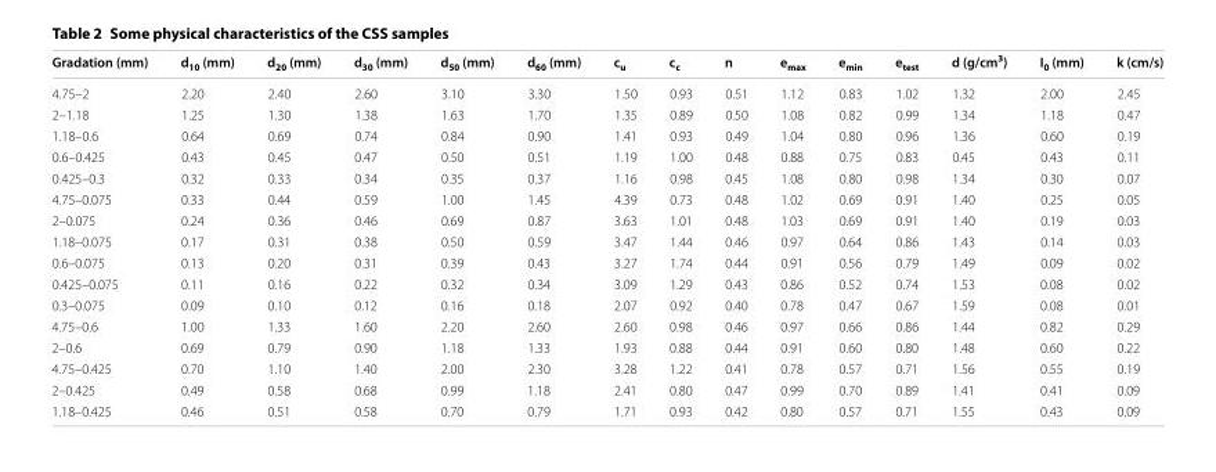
<table><thead><tr><td>Gradation (mm)</td><td>d<sub>10</sub> (mm)</td><td>d<sub>20</sub> (mm)</td><td>d<sub>30</sub> (mm)</td><td>d<sub>50</sub> (mm)</td><td>d<sub>60</sub> (mm)</td><td>c<sub>u</sub></td><td>c<sub>c</sub></td><td>n</td><td>e<sub>max</sub></td><td>e<sub>min</sub></td><td>e<sub>test</sub></td><td>d (g/cm<sup>3</sup>)</td><td>I<sub>0</sub> (mm)</td><td>k (cm/s)</td></tr></thead><tbody><tr><td>4.75–2</td><td>2.20</td><td>2.40</td><td>2.60</td><td>3.10</td><td>3.30</td><td>1.50</td><td>0.93</td><td>0.51</td><td>1.12</td><td>0.83</td><td>1.02</td><td>1.32</td><td>2.00</td><td>2.45</td></tr><tr><td>2–1.18</td><td>1.25</td><td>1.30</td><td>1.38</td><td>1.63</td><td>1.70</td><td>1.35</td><td>0.89</td><td>0.50</td><td>1.08</td><td>0.82</td><td>0.99</td><td>1.34</td><td>1.18</td><td>0.47</td></tr><tr><td>1.18–0.6</td><td>0.64</td><td>0.69</td><td>0.74</td><td>0.84</td><td>0.90</td><td>1.41</td><td>0.93</td><td>0.49</td><td>1.04</td><td>0.80</td><td>0.96</td><td>1.36</td><td>0.60</td><td>0.19</td></tr><tr><td>0.6–0.425</td><td>0.43</td><td>0.45</td><td>0.47</td><td>0.50</td><td>0.51</td><td>1.19</td><td>1.00</td><td>0.48</td><td>0.88</td><td>0.75</td><td>0.83</td><td>0.45</td><td>0.43</td><td>0.11</td></tr><tr><td>0.425–0.3</td><td>0.32</td><td>0.33</td><td>0.34</td><td>0.35</td><td>0.37</td><td>1.16</td><td>0.98</td><td>0.45</td><td>1.08</td><td>0.80</td><td>0.98</td><td>1.34</td><td>0.30</td><td>0.07</td></tr><tr><td>4.75–0.075</td><td>0.33</td><td>0.44</td><td>0.59</td><td>1.00</td><td>1.45</td><td>4.39</td><td>0.73</td><td>0.48</td><td>1.02</td><td>0.69</td><td>0.91</td><td>1.40</td><td>0.25</td><td>0.05</td></tr><tr><td>2–0.075</td><td>0.24</td><td>0.36</td><td>0.46</td><td>0.69</td><td>0.87</td><td>3.63</td><td>1.01</td><td>0.48</td><td>1.03</td><td>0.69</td><td>0.91</td><td>1.40</td><td>0.19</td><td>0.03</td></tr><tr><td>1.18–0.075</td><td>0.17</td><td>0.31</td><td>0.38</td><td>0.50</td><td>0.59</td><td>3.47</td><td>1.44</td><td>0.46</td><td>0.97</td><td>0.64</td><td>0.86</td><td>1.43</td><td>0.14</td><td>0.03</td></tr><tr><td>0.6–0.075</td><td>0.13</td><td>0.20</td><td>0.31</td><td>0.39</td><td>0.43</td><td>3.27</td><td>1.74</td><td>0.44</td><td>0.91</td><td>0.56</td><td>0.79</td><td>1.49</td><td>0.09</td><td>0.02</td></tr><tr><td>0.425–0.075</td><td>0.11</td><td>0.16</td><td>0.22</td><td>0.32</td><td>0.34</td><td>3.09</td><td>1.29</td><td>0.43</td><td>0.86</td><td>0.52</td><td>0.74</td><td>1.53</td><td>0.08</td><td>0.02</td></tr><tr><td>0.3–0.075</td><td>0.09</td><td>0.10</td><td>0.12</td><td>0.16</td><td>0.18</td><td>2.07</td><td>0.92</td><td>0.40</td><td>0.78</td><td>0.47</td><td>0.67</td><td>1.59</td><td>0.08</td><td>0.01</td></tr><tr><td>4.75–0.6</td><td>1.00</td><td>1.33</td><td>1.60</td><td>2.20</td><td>2.60</td><td>2.60</td><td>0.98</td><td>0.46</td><td>0.97</td><td>0.66</td><td>0.86</td><td>1.44</td><td>0.82</td><td>0.29</td></tr><tr><td>2–0.6</td><td>0.69</td><td>0.79</td><td>0.90</td><td>1.18</td><td>1.33</td><td>1.93</td><td>0.88</td><td>0.44</td><td>0.91</td><td>0.60</td><td>0.80</td><td>1.48</td><td>0.60</td><td>0.22</td></tr><tr><td>4.75–0.425</td><td>0.70</td><td>1.10</td><td>1.40</td><td>2.00</td><td>2.30</td><td>3.28</td><td>1.22</td><td>0.41</td><td>0.78</td><td>0.57</td><td>0.71</td><td>1.56</td><td>0.55</td><td>0.19</td></tr><tr><td>2–0.425</td><td>0.49</td><td>0.58</td><td>0.68</td><td>0.99</td><td>1.18</td><td>2.41</td><td>0.80</td><td>0.47</td><td>0.99</td><td>0.70</td><td>0.89</td><td>1.41</td><td>0.41</td><td>0.09</td></tr><tr><td>1.18–0.425</td><td>0.46</td><td>0.51</td><td>0.58</td><td>0.70</td><td>0.79</td><td>1.71</td><td>0.93</td><td>0.42</td><td>0.80</td><td>0.57</td><td>0.71</td><td>1.55</td><td>0.43</td><td>0.09</td></tr></tbody></table>